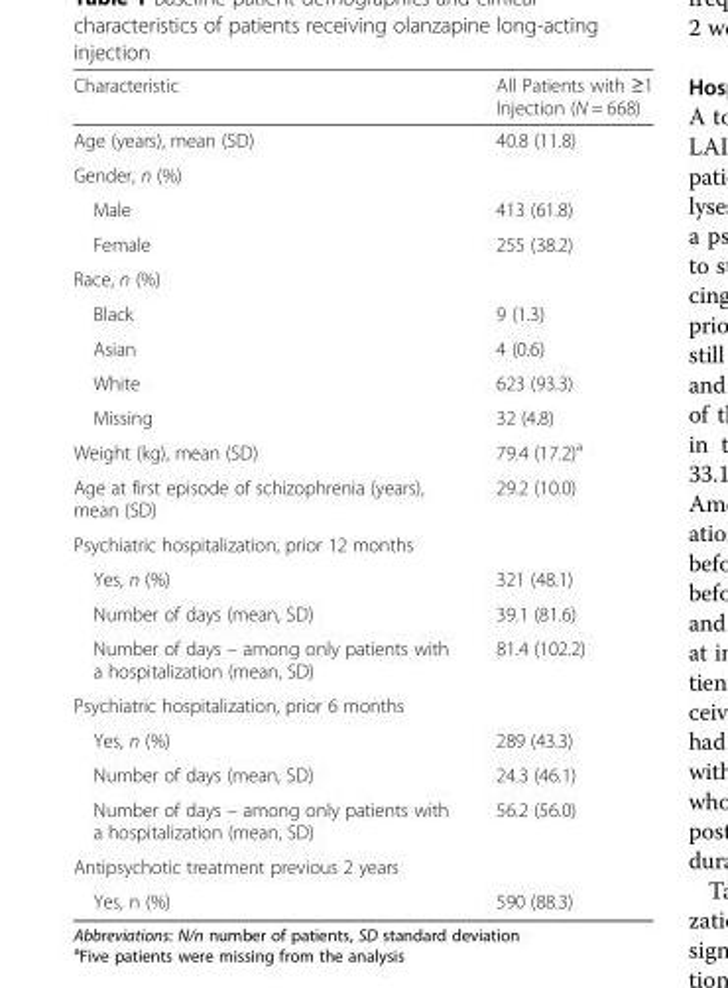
<table><thead><tr><td>Characteristic</td><td>All Patients with ≥1 Injection (N = 668)</td></tr></thead><tbody><tr><td>Age (years), mean (SD)</td><td>40.8 (11.8)</td></tr><tr><td colspan="2">Gender, n (%)</td></tr><tr><td>Male</td><td>413 (61.8)</td></tr><tr><td>Female</td><td>255 (38.2)</td></tr><tr><td colspan="2">Race, n (%)</td></tr><tr><td>Black</td><td>9 (1.3)</td></tr><tr><td>Asian</td><td>4 (0.6)</td></tr><tr><td>White</td><td>623 (93.3)</td></tr><tr><td>Missing</td><td>32 (4.8)</td></tr><tr><td>Weight (kg), mean (SD)</td><td>79.4 (17.2)<sup>a</sup></td></tr><tr><td>Age at first episode of schizophrenia (years), mean (SD)</td><td>29.2 (10.0)</td></tr><tr><td colspan="2">Psychiatric hospitalization, prior 12 months</td></tr><tr><td>Yes, n (%)</td><td>321 (48.1)</td></tr><tr><td>Number of days (mean, SD)</td><td>39.1 (81.6)</td></tr><tr><td>Number of days – among only patients with a hospitalization (mean, SD)</td><td>81.4 (102.2)</td></tr><tr><td colspan="2">Psychiatric hospitalization, prior 6 months</td></tr><tr><td>Yes, n (%)</td><td>289 (43.3)</td></tr><tr><td>Number of days (mean, SD)</td><td>24.3 (46.1)</td></tr><tr><td>Number of days – among only patients with a hospitalization (mean, SD)</td><td>56.2 (56.0)</td></tr><tr><td colspan="2">Antipsychotic treatment previous 2 years</td></tr><tr><td>Yes, n (%)</td><td>590 (88.3)</td></tr></tbody></table>